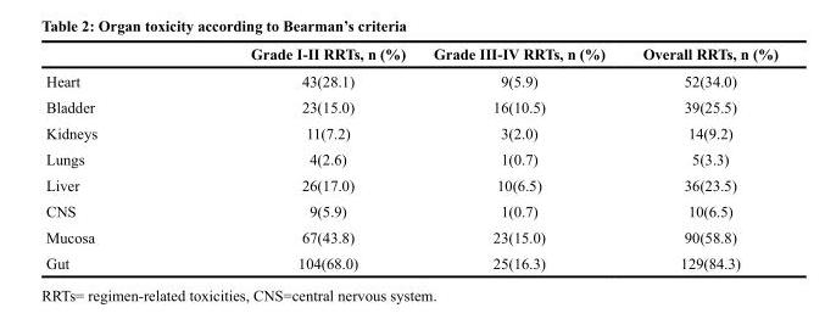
<table><thead><tr><td></td><td>Grade I-II RRTs, n (%)</td><td>Grade III-IV RRTs, n (%)</td><td>Overall RRTs, n (%)</td></tr></thead><tbody><tr><td>Heart</td><td>43(28.1)</td><td>9(5.9)</td><td>52(34.0)</td></tr><tr><td>Bladder</td><td>23(15.0)</td><td>16(10.5)</td><td>39(25.5)</td></tr><tr><td>Kidneys</td><td>11(7.2)</td><td>3(2.0)</td><td>14(9.2)</td></tr><tr><td>Lungs</td><td>4(2.6)</td><td>1(0.7)</td><td>5(3.3)</td></tr><tr><td>Liver</td><td>26(17.0)</td><td>10(6.5)</td><td>36(23.5)</td></tr><tr><td>CNS</td><td>9(5.9)</td><td>1(0.7)</td><td>10(6.5)</td></tr><tr><td>Mucosa</td><td>67(43.8)</td><td>23(15.0)</td><td>90(58.8)</td></tr><tr><td>Gut</td><td>104(68.0)</td><td>25(16.3)</td><td>129(84.3)</td></tr></tbody></table>